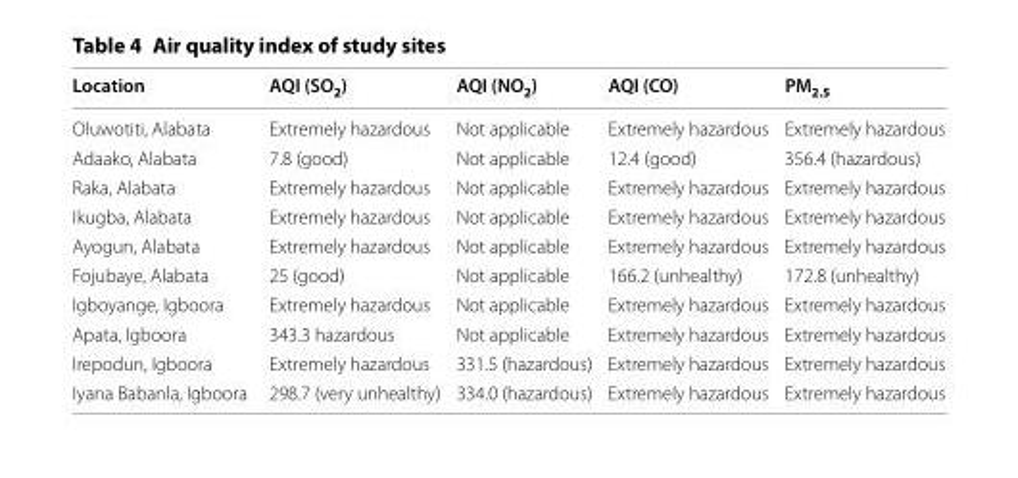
<table><thead><tr><td>Location</td><td>AQI (SO<sub>2</sub>)</td><td>AQI (NO<sub>2</sub>)</td><td>AQI (CO)</td><td>PM<sub>2.5</sub></td></tr></thead><tbody><tr><td>Oluwotiti, Alabata</td><td>Extremely hazardous</td><td>Not applicable</td><td>Extremely hazardous</td><td>Extremely hazardous</td></tr><tr><td>Adaako, Alabata</td><td>7.8 (good)</td><td>Not applicable</td><td>12.4 (good)</td><td>356.4 (hazardous)</td></tr><tr><td>Raka, Alabata</td><td>Extremely hazardous</td><td>Not applicable</td><td>Extremely hazardous</td><td>Extremely hazardous</td></tr><tr><td>Ikugba, Alabata</td><td>Extremely hazardous</td><td>Not applicable</td><td>Extremely hazardous</td><td>Extremely hazardous</td></tr><tr><td>Ayogun, Alabata</td><td>Extremely hazardous</td><td>Not applicable</td><td>Extremely hazardous</td><td>Extremely hazardous</td></tr><tr><td>Fojubaye, Alabata</td><td>25 (good)</td><td>Not applicable</td><td>166.2 (unhealthy)</td><td>172.8 (unhealthy)</td></tr><tr><td>Igboyange, Igboora</td><td>Extremely hazardous</td><td>Not applicable</td><td>Extremely hazardous</td><td>Extremely hazardous</td></tr><tr><td>Apata, Igboora</td><td>343.3 hazardous</td><td>Not applicable</td><td>Extremely hazardous</td><td>Extremely hazardous</td></tr><tr><td>Irepodun, Igboora</td><td>Extremely hazardous</td><td>331.5 (hazardous)</td><td>Extremely hazardous</td><td>Extremely hazardous</td></tr><tr><td>Iyana Babanla, Igboora</td><td>298.7 (very unhealthy)</td><td>334.0 (hazardous)</td><td>Extremely hazardous</td><td>Extremely hazardous</td></tr></tbody></table>